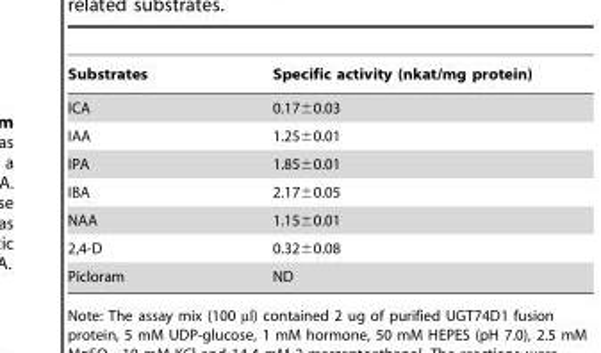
<table><thead><tr><td>Substrates</td><td>Specific activity (nkat/mg protein)</td></tr></thead><tbody><tr><td>ICA</td><td>0.17±0.03</td></tr><tr><td>IAA</td><td>1.25±0.01</td></tr><tr><td>IPA</td><td>1.85±0.01</td></tr><tr><td>IBA</td><td>2.17±0.05</td></tr><tr><td>NAA</td><td>1.15±0.01</td></tr><tr><td>2,4-D</td><td>0.32±0.08</td></tr><tr><td>Picloram</td><td>ND</td></tr></tbody></table>